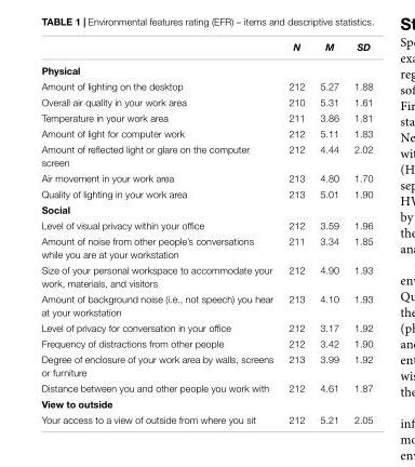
<table><thead><tr><td></td><td>N</td><td>M</td><td>SD</td></tr></thead><tbody><tr><td colspan="4">Physical</td></tr><tr><td>Amount of lighting on the desktop</td><td>212</td><td>5.27</td><td>1.88</td></tr><tr><td>Overall air quality in your work area</td><td>210</td><td>5.31</td><td>1.61</td></tr><tr><td>Temperature in your work area</td><td>211</td><td>3.86</td><td>1.81</td></tr><tr><td>Amount of light for computer work</td><td>212</td><td>5.11</td><td>1.83</td></tr><tr><td>Amount of reflected light or glare on the computer screen</td><td>212</td><td>4.44</td><td>2.02</td></tr><tr><td>Air movement in your work area</td><td>213</td><td>4.80</td><td>1.70</td></tr><tr><td>Quality of lighting in your work area</td><td>213</td><td>5.01</td><td>1.90</td></tr><tr><td colspan="4">Social</td></tr><tr><td>Level of visual privacy within your office</td><td>212</td><td>3.59</td><td>1.96</td></tr><tr><td>Amount of noise from other people’s conversations while you are at your workstation</td><td>211</td><td>3.34</td><td>1.85</td></tr><tr><td>Size of your personal workspace to accommodate your work, materials, and visitors</td><td>212</td><td>4.90</td><td>1.93</td></tr><tr><td>Amount of background noise (i.e., not speech) you hear at your workstation</td><td>213</td><td>4.10</td><td>1.93</td></tr><tr><td>Level of privacy for conversation in your office</td><td>212</td><td>3.17</td><td>1.92</td></tr><tr><td>Frequency of distractions from other people</td><td>212</td><td>3.42</td><td>1.90</td></tr><tr><td>Degree of enclosure of your work area by walls, screens or furniture</td><td>213</td><td>3.99</td><td>1.92</td></tr><tr><td>Distance between you and other people you work with</td><td>212</td><td>4.61</td><td>1.87</td></tr><tr><td colspan="4">View to outside</td></tr><tr><td>Your access to a view of outside from where you sit</td><td>212</td><td>5.21</td><td>2.05</td></tr></tbody></table>